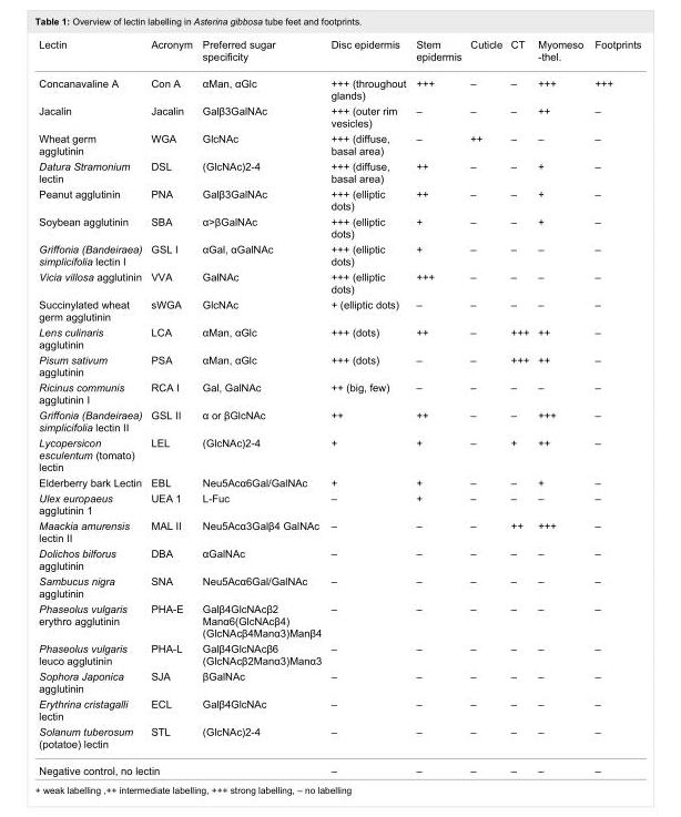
<table><tbody><tr><td>Lectin</td><td>Acronym</td><td>Preferred sugar specificity</td><td>Disc epidermis</td><td>Stem epidermis</td><td>Cuticle</td><td>CT</td><td>Myomeso -thel.</td><td>Footprints</td></tr><tr><td>Concanavaline A</td><td>Con A</td><td>αMan, αGlc</td><td>+++ (throughout glands)</td><td>+++</td><td>–</td><td>–</td><td>+++</td><td>+++</td></tr><tr><td>Jacalin</td><td>Jacalin</td><td>Galβ3GalNAc</td><td>+++ (outer rim vesicles)</td><td>–</td><td>–</td><td>–</td><td>++</td><td>–</td></tr><tr><td>Wheat germ agglutinin</td><td>WGA</td><td>GlcNAc</td><td>+++ (diffuse, basal area)</td><td>–</td><td>++</td><td>–</td><td>–</td><td>–</td></tr><tr><td>Datura Stramonium lectin</td><td>DSL</td><td>(GlcNAc)2-4</td><td>+++ (diffuse, basal area)</td><td>++</td><td>–</td><td>–</td><td>+</td><td>–</td></tr><tr><td>Peanut agglutinin</td><td>PNA</td><td>Galβ3GalNAc</td><td>+++ (elliptic dots)</td><td>++</td><td>–</td><td>–</td><td>+</td><td>–</td></tr><tr><td>Soybean agglutinin</td><td>SBA</td><td>α&gt;βGalNAc</td><td>+++ (elliptic dots)</td><td>+</td><td>–</td><td>–</td><td>+</td><td>–</td></tr><tr><td>Griffonia (Bandeiraea) simplicifolia lectin I</td><td>GSL I</td><td>αGal, αGalNAc</td><td>+++ (elliptic dots)</td><td>+</td><td>–</td><td>–</td><td>–</td><td>–</td></tr><tr><td>Vicia villosa agglutinin</td><td>VVA</td><td>GalNAc</td><td>+++ (elliptic dots)</td><td>+++</td><td>–</td><td>–</td><td>–</td><td>–</td></tr><tr><td>Succinylated wheat germ agglutinin</td><td>sWGA</td><td>GlcNAc</td><td>+ (elliptic dots)</td><td>–</td><td>–</td><td>–</td><td>–</td><td>–</td></tr><tr><td>Lens culinaris agglutinin</td><td>LCA</td><td>αMan, αGlc</td><td>+++ (dots)</td><td>++</td><td>–</td><td>+++</td><td>++</td><td>–</td></tr><tr><td>Pisum sativum agglutinin</td><td>PSA</td><td>αMan, αGlc</td><td>+++ (dots)</td><td>–</td><td>–</td><td>+++</td><td>++</td><td>–</td></tr><tr><td>Ricinus communis agglutinin I</td><td>RCA I</td><td>Gal, GalNAc</td><td>++ (big, few)</td><td>–</td><td>–</td><td>–</td><td>–</td><td>–</td></tr><tr><td>Griffonia (Bandeiraea) simplicifolia lectin II</td><td>GSL II</td><td>α or βGlcNAc</td><td>++</td><td>++</td><td>–</td><td>–</td><td>+++</td><td>–</td></tr><tr><td>Lycopersicon esculentum (tomato) lectin</td><td>LEL</td><td>(GlcNAc)2-4</td><td>+</td><td>+</td><td>–</td><td>+</td><td>++</td><td>–</td></tr><tr><td>Elderberry bark Lectin</td><td>EBL</td><td>Neu5Acα6Gal/GalNAc</td><td>+</td><td>+</td><td>–</td><td>–</td><td>+</td><td>–</td></tr><tr><td>Ulex europaeus agglutinin 1</td><td>UEA 1</td><td>L-Fuc</td><td>–</td><td>+</td><td>–</td><td>–</td><td>–</td><td>–</td></tr><tr><td>Maackia amurensis lectin II</td><td>MAL II</td><td>Neu5Acα3Galβ4 GalNAc</td><td>–</td><td>–</td><td>–</td><td>++</td><td>+++</td><td>–</td></tr><tr><td>Dolichos bilforus agglutinin</td><td>DBA</td><td>αGalNAc</td><td>–</td><td>–</td><td>–</td><td>–</td><td>–</td><td>–</td></tr><tr><td>Sambucus nigra agglutinin</td><td>SNA</td><td>Neu5Acα6Gal/GalNAc</td><td>–</td><td>–</td><td>–</td><td>–</td><td>–</td><td>–</td></tr><tr><td>Phaseolus vulgaris erythro agglutinin</td><td>PHA-E</td><td>Galβ4GlcNAcβ2 Manα6(GlcNAcβ4) (GlcNAcβ4Manα3)Manβ4</td><td>–</td><td>–</td><td>–</td><td>–</td><td>–</td><td>–</td></tr><tr><td>Phaseolus vulgaris leuco agglutinin</td><td>PHA-L</td><td>Galβ4GlcNAcβ6 (GlcNAcβ2Manα3)Manα3</td><td>–</td><td>–</td><td>–</td><td>–</td><td>–</td><td>–</td></tr><tr><td>Sophora Japonica agglutinin</td><td>SJA</td><td>βGalNAc</td><td>–</td><td>–</td><td>–</td><td>–</td><td>–</td><td>–</td></tr><tr><td>Erythrina cristagalli lectin</td><td>ECL</td><td>Galβ4GlcNAc</td><td>–</td><td>–</td><td>–</td><td>–</td><td>–</td><td>–</td></tr><tr><td>Solanum tuberosum (potatoe) lectin</td><td>STL</td><td>(GlcNAc)2-4</td><td>–</td><td>–</td><td>–</td><td>–</td><td>–</td><td>–</td></tr><tr><td colspan="2">Negative control, no lectin</td><td></td><td>–</td><td>–</td><td>–</td><td>–</td><td>–</td><td>–</td></tr></tbody></table>